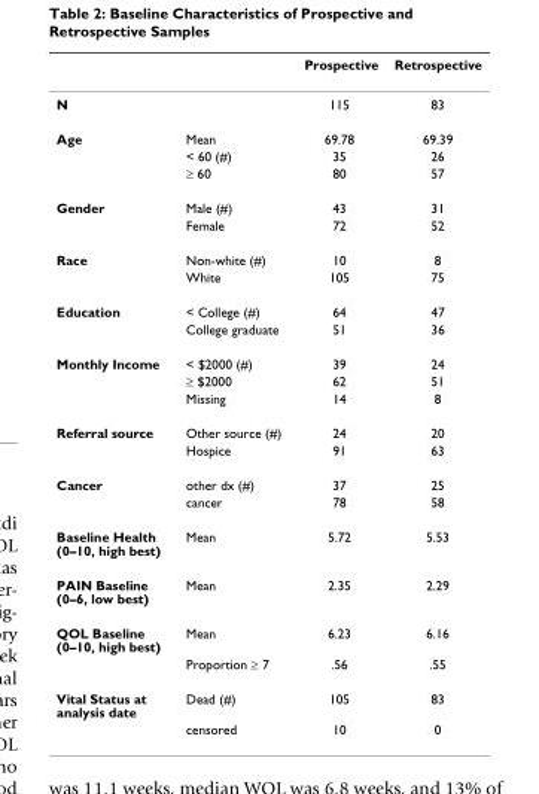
<table><thead><tr><td></td><td></td><td>Prospective</td><td>Retrospective</td></tr></thead><tbody><tr><td>N</td><td></td><td>115</td><td>83</td></tr><tr><td rowspan="3">Age</td><td>Mean</td><td>69.78</td><td>69.39</td></tr><tr><td>&lt; 60 (#)</td><td>35</td><td>26</td></tr><tr><td>≥ 60</td><td>80</td><td>57</td></tr><tr><td rowspan="2">Gender</td><td>Male (#)</td><td>43</td><td>31</td></tr><tr><td>Female</td><td>72</td><td>52</td></tr><tr><td rowspan="2">Race</td><td>Non-white (#)</td><td>10</td><td>8</td></tr><tr><td>White</td><td>105</td><td>75</td></tr><tr><td rowspan="2">Education</td><td>&lt; College (#)</td><td>64</td><td>47</td></tr><tr><td>College graduate</td><td>51</td><td>36</td></tr><tr><td rowspan="3">Monthly Income</td><td>&lt; $2000 (#)</td><td>39</td><td>24</td></tr><tr><td>≥ $2000</td><td>62</td><td>51</td></tr><tr><td>Missing</td><td>14</td><td>8</td></tr><tr><td rowspan="2">Referral source</td><td>Other source (#)</td><td>24</td><td>20</td></tr><tr><td>Hospice</td><td>91</td><td>63</td></tr><tr><td rowspan="2">Cancer</td><td>other dx (#)</td><td>37</td><td>25</td></tr><tr><td>cancer</td><td>78</td><td>58</td></tr><tr><td>Baseline Health (0–10, high best)</td><td>Mean</td><td>5.72</td><td>5.53</td></tr><tr><td>PAIN Baseline (0–6, low best)</td><td>Mean</td><td>2.35</td><td>2.29</td></tr><tr><td rowspan="2">QOL Baseline (0–10, high best)</td><td>Mean</td><td>6.23</td><td>6.16</td></tr><tr><td>Proportion ≥ 7</td><td>.56</td><td>.55</td></tr><tr><td rowspan="2">Vital Status at analysis date</td><td>Dead (#)</td><td>105</td><td>83</td></tr><tr><td>censored</td><td>10</td><td>0</td></tr></tbody></table>